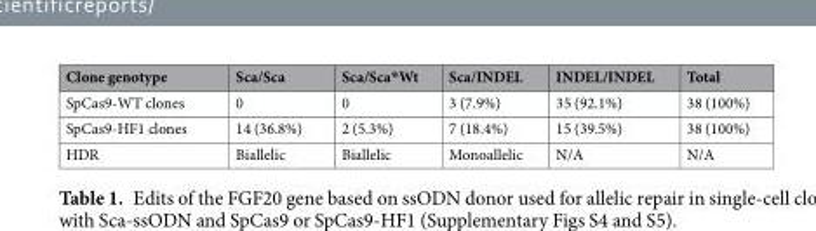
<table><thead><tr><td>Clone genotype</td><td>Sca/Sca</td><td>Sca/Sca*Wt</td><td>Sca/INDEL</td><td>INDEL/INDEL</td><td>Total</td></tr></thead><tbody><tr><td>SpCas9-WT clones</td><td>0</td><td>0</td><td>3 (7.9%)</td><td>35 (92.1%)</td><td>38 (100%)</td></tr><tr><td>SpCas9-HF1 clones</td><td>14 (36.8%)</td><td>2 (5.3%)</td><td>7 (18.4%)</td><td>15 (39.5%)</td><td>38 (100%)</td></tr><tr><td>HDR</td><td>Biallelic</td><td>Biallelic</td><td>Monoallelic</td><td>N/A</td><td>N/A</td></tr></tbody></table>